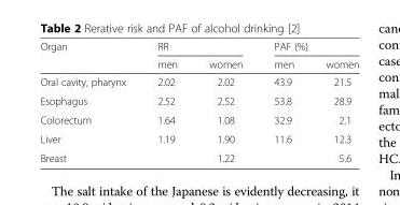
<table><thead><tr><td rowspan="2">Organ</td><td colspan="2">RR</td><td colspan="2">PAF (%)</td></tr><tr><td>men</td><td>women</td><td>men</td><td>women</td></tr></thead><tbody><tr><td>Oral cavity, pharynx</td><td>2.02</td><td>2.02</td><td>43.9</td><td>21.5</td></tr><tr><td>Esophagus</td><td>2.52</td><td>2.52</td><td>53.8</td><td>28.9</td></tr><tr><td>Colorectum</td><td>1.64</td><td>1.08</td><td>32.9</td><td>2.1</td></tr><tr><td>Liver</td><td>1.19</td><td>1.90</td><td>11.6</td><td>12.3</td></tr><tr><td>Breast</td><td></td><td>1.22</td><td></td><td>5.6</td></tr></tbody></table>